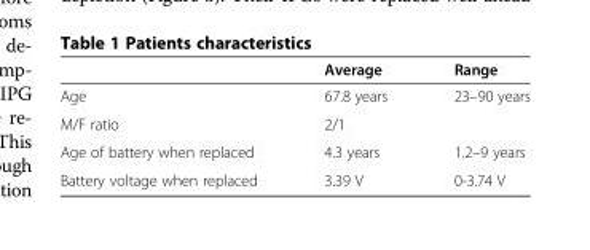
<table><thead><tr><td></td><td>Average</td><td>Range</td></tr></thead><tbody><tr><td>Age</td><td>67.8 years</td><td>23–90 years</td></tr><tr><td>M/F ratio</td><td>2/1</td><td></td></tr><tr><td>Age of battery when replaced</td><td>4.3 years</td><td>1.2–9 years</td></tr><tr><td>Battery voltage when replaced</td><td>3.39 V</td><td>0-3.74 V</td></tr></tbody></table>